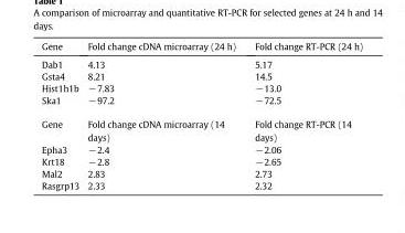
<table><thead><tr><td>Gene</td><td>Fold change cDNA microarray (24 h)</td><td>Fold change RT-PCR (24 h)</td></tr></thead><tbody><tr><td>Dab1</td><td>4.13</td><td>5.17</td></tr><tr><td>Gsta4</td><td>8.21</td><td>14.5</td></tr><tr><td>Hist1h1b</td><td>−7.83</td><td>−13.0</td></tr><tr><td>Ska1</td><td>−97.2</td><td>−72.5</td></tr><tr><td>Gene</td><td>Fold change cDNA microarray (14 days)</td><td>Fold change RT-PCR (14 days)</td></tr><tr><td>Epha3</td><td>−2.4</td><td>−2.06</td></tr><tr><td>Krt18</td><td>−2.8</td><td>−2.65</td></tr><tr><td>Mal2</td><td>2.83</td><td>2.73</td></tr><tr><td>Rasgrp13</td><td>2.33</td><td>2.32</td></tr></tbody></table>